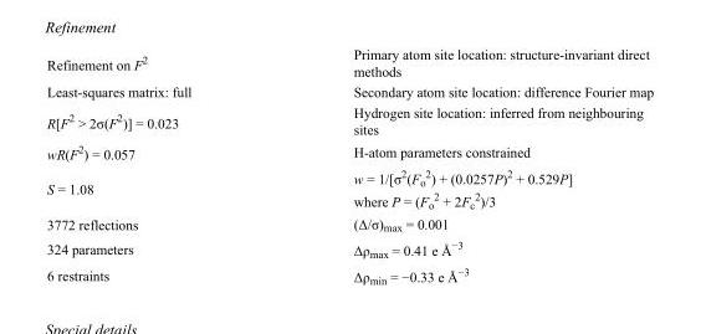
<table><tbody><tr><td>Refinement on F<sup>2</sup></td><td>Primary atom site location: structure-invariant direct methods</td></tr><tr><td>Least-squares matrix: full</td><td>Secondary atom site location: difference Fourier map</td></tr><tr><td>R[F<sup>2</sup> &gt; 2σ(F<sup>2</sup>)] = 0.023</td><td>Hydrogen site location: inferred from neighbouring sites</td></tr><tr><td>wR(F<sup>2</sup>) = 0.057</td><td>H-atom parameters constrained</td></tr><tr><td>S = 1.08</td><td>w = 1/[σ<sup>2</sup>(F<sub>o</sub> <sup>2</sup>) + (0.0257P)<sup>2</sup> + 0.529P] where P = (F<sub>o</sub> <sup>2</sup> + 2F<sub>c</sub> <sup>2</sup>)/3</td></tr><tr><td>3772 reflections</td><td>(Δ/σ)<sub>max</sub> = 0.001</td></tr><tr><td>324 parameters</td><td>Δρ<sub>max</sub> = 0.41 e Å<sup>−3</sup></td></tr><tr><td>6 restraints</td><td>Δρ<sub>min</sub> = −0.33 e Å<sup>−3</sup></td></tr></tbody></table>